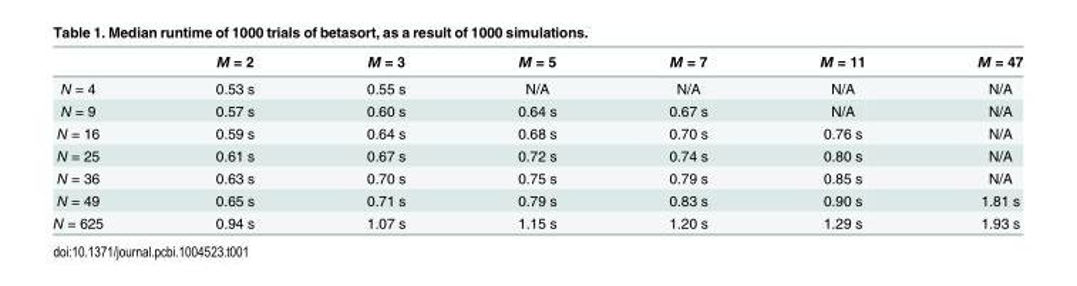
<table><thead><tr><td></td><td>M = 2</td><td>M = 3</td><td>M = 5</td><td>M = 7</td><td>M = 11</td><td>M = 47</td></tr></thead><tbody><tr><td>N = 4</td><td>0.53 s</td><td>0.55 s</td><td>N/A</td><td>N/A</td><td>N/A</td><td>N/A</td></tr><tr><td>N = 9</td><td>0.57 s</td><td>0.60 s</td><td>0.64 s</td><td>0.67 s</td><td>N/A</td><td>N/A</td></tr><tr><td>N = 16</td><td>0.59 s</td><td>0.64 s</td><td>0.68 s</td><td>0.70 s</td><td>0.76 s</td><td>N/A</td></tr><tr><td>N = 25</td><td>0.61 s</td><td>0.67 s</td><td>0.72 s</td><td>0.74 s</td><td>0.80 s</td><td>N/A</td></tr><tr><td>N = 36</td><td>0.63 s</td><td>0.70 s</td><td>0.75 s</td><td>0.79 s</td><td>0.85 s</td><td>N/A</td></tr><tr><td>N = 49</td><td>0.65 s</td><td>0.71 s</td><td>0.79 s</td><td>0.83 s</td><td>0.90 s</td><td>1.81 s</td></tr><tr><td>N = 625</td><td>0.94 s</td><td>1.07 s</td><td>1.15 s</td><td>1.20 s</td><td>1.29 s</td><td>1.93 s</td></tr></tbody></table>